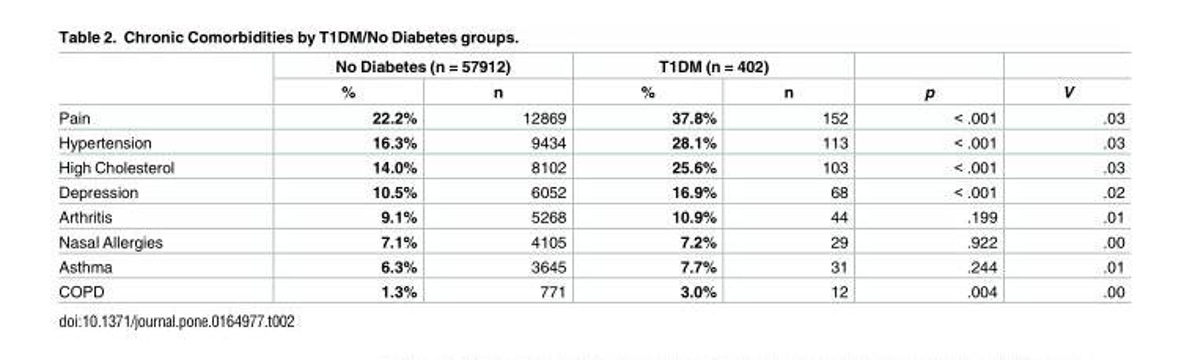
<table><thead><tr><td rowspan="2"></td><td colspan="2">No Diabetes (n = 57912)</td><td colspan="2">T1DM (n = 402)</td><td rowspan="2">p</td><td rowspan="2">V</td></tr><tr><td>%</td><td>n</td><td>%</td><td>n</td></tr></thead><tbody><tr><td>Pain</td><td>22.2%</td><td>12869</td><td>37.8%</td><td>152</td><td>&lt; .001</td><td>.03</td></tr><tr><td>Hypertension</td><td>16.3%</td><td>9434</td><td>28.1%</td><td>113</td><td>&lt; .001</td><td>.03</td></tr><tr><td>High Cholesterol</td><td>14.0%</td><td>8102</td><td>25.6%</td><td>103</td><td>&lt; .001</td><td>.03</td></tr><tr><td>Depression</td><td>10.5%</td><td>6052</td><td>16.9%</td><td>68</td><td>&lt; .001</td><td>.02</td></tr><tr><td>Arthritis</td><td>9.1%</td><td>5268</td><td>10.9%</td><td>44</td><td>.199</td><td>.01</td></tr><tr><td>Nasal Allergies</td><td>7.1%</td><td>4105</td><td>7.2%</td><td>29</td><td>.922</td><td>.00</td></tr><tr><td>Asthma</td><td>6.3%</td><td>3645</td><td>7.7%</td><td>31</td><td>.244</td><td>.01</td></tr><tr><td>COPD</td><td>1.3%</td><td>771</td><td>3.0%</td><td>12</td><td>.004</td><td>.00</td></tr></tbody></table>